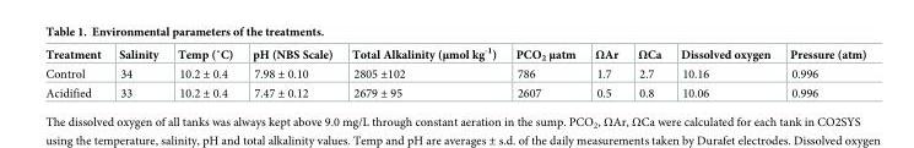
<table><thead><tr><td>Treatment</td><td>Salinity</td><td>Temp (˚C)</td><td>pH (NBS Scale)</td><td>Total Alkalinity (μmol kg<sup>-1</sup>)</td><td>PCO<sub>2</sub> μatm</td><td>ΩAr</td><td>ΩCa</td><td>Dissolved oxygen</td><td>Pressure (atm)</td></tr></thead><tbody><tr><td>Control</td><td>34</td><td>10.2 ± 0.4</td><td>7.98 ± 0.10</td><td>2805 ±102</td><td>786</td><td>1.7</td><td>2.7</td><td>10.16</td><td>0.996</td></tr><tr><td>Acidified</td><td>33</td><td>10.2 ± 0.4</td><td>7.47 ± 0.12</td><td>2679 ± 95</td><td>2607</td><td>0.5</td><td>0.8</td><td>10.06</td><td>0.996</td></tr></tbody></table>